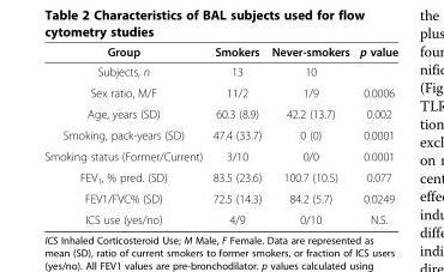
<table><thead><tr><td>Group</td><td>Smokers</td><td>Never-smokers</td><td>p value</td></tr></thead><tbody><tr><td>Subjects, n</td><td>13</td><td>10</td><td></td></tr><tr><td>Sex ratio, M/F</td><td>11/2</td><td>1/9</td><td>0.0006</td></tr><tr><td>Age, years (SD)</td><td>60.3 (8.9)</td><td>42.2 (13.7)</td><td>0.002</td></tr><tr><td>Smoking, pack-years (SD)</td><td>47.4 (33.7)</td><td>0 (0)</td><td>0.0001</td></tr><tr><td>Smoking status (Former/Current)</td><td>3/10</td><td>0/0</td><td>0.0001</td></tr><tr><td>FEV<sub>1</sub>, % pred. (SD)</td><td>83.5 (23.6)</td><td>100.7 (10.5)</td><td>0.077</td></tr><tr><td>FEV1/FVC% (SD)</td><td>72.5 (14.3)</td><td>84.2 (5.7)</td><td>0.0249</td></tr><tr><td>ICS use (yes/no)</td><td>4/9</td><td>0/10</td><td>N.S.</td></tr></tbody></table>